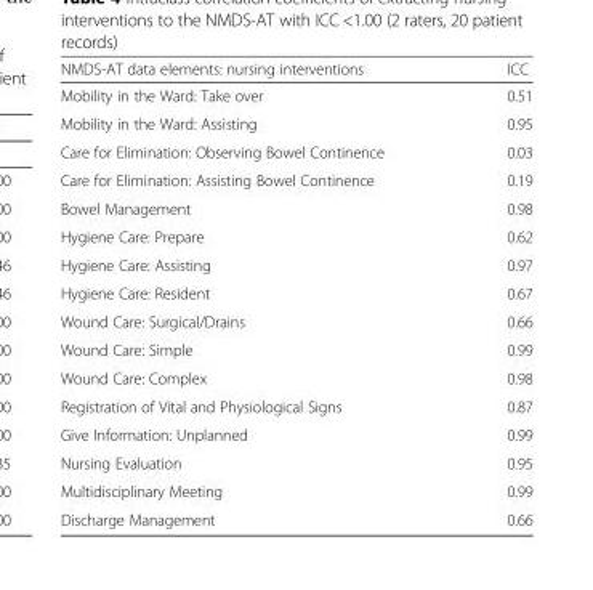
<table><thead><tr><td>NMDS-AT data elements: nursing interventions</td><td>ICC</td></tr></thead><tbody><tr><td>Mobility in the Ward: Take over</td><td>0.51</td></tr><tr><td>Mobility in the Ward: Assisting</td><td>0.95</td></tr><tr><td>Care for Elimination: Observing Bowel Continence</td><td>0.03</td></tr><tr><td>Care for Elimination: Assisting Bowel Continence</td><td>0.19</td></tr><tr><td>Bowel Management</td><td>0.98</td></tr><tr><td>Hygiene Care: Prepare</td><td>0.62</td></tr><tr><td>Hygiene Care: Assisting</td><td>0.97</td></tr><tr><td>Hygiene Care: Resident</td><td>0.67</td></tr><tr><td>Wound Care: Surgical/Drains</td><td>0.66</td></tr><tr><td>Wound Care: Simple</td><td>0.99</td></tr><tr><td>Wound Care: Complex</td><td>0.98</td></tr><tr><td>Registration of Vital and Physiological Signs</td><td>0.87</td></tr><tr><td>Give Information: Unplanned</td><td>0.99</td></tr><tr><td>Nursing Evaluation</td><td>0.95</td></tr><tr><td>Multidisciplinary Meeting</td><td>0.99</td></tr><tr><td>Discharge Management</td><td>0.66</td></tr></tbody></table>